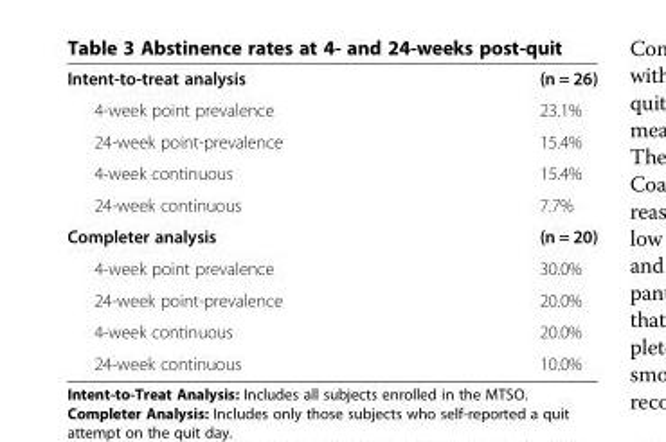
<table><tbody><tr><td>Intent-to-treat analysis</td><td>(n = 26)</td></tr><tr><td>4-week point prevalence</td><td>23.1%</td></tr><tr><td>24-week point-prevalence</td><td>15.4%</td></tr><tr><td>4-week continuous</td><td>15.4%</td></tr><tr><td>24-week continuous</td><td>7.7%</td></tr><tr><td>Completer analysis</td><td>(n = 20)</td></tr><tr><td>4-week point prevalence</td><td>30.0%</td></tr><tr><td>24-week point-prevalence</td><td>20.0%</td></tr><tr><td>4-week continuous</td><td>20.0%</td></tr><tr><td>24-week continuous</td><td>10.0%</td></tr></tbody></table>